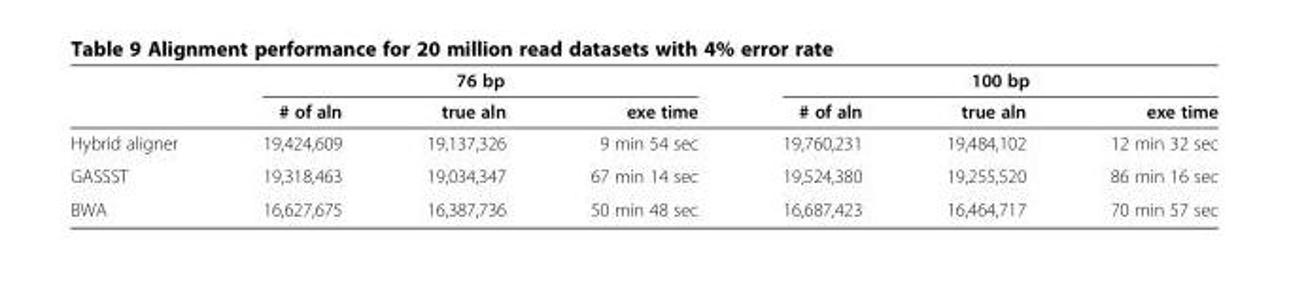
<table><thead><tr><td rowspan="2"></td><td rowspan="2"># of aln</td><td rowspan="2">76 bp true aln</td><td rowspan="2">exe time</td><td rowspan="2"># of aln</td><td rowspan="2">100 bp true aln</td><td rowspan="2">exe time</td></tr><tr></tr></thead><tbody><tr><td>Hybrid aligner</td><td>19,424,609</td><td>19,137,326</td><td>9 min 54 sec</td><td>19,760,231</td><td>19,484,102</td><td>12 min 32 sec</td></tr><tr><td>GASSST</td><td>19,318,463</td><td>19,034,347</td><td>67 min 14 sec</td><td>19,524,380</td><td>19,255,520</td><td>86 min 16 sec</td></tr><tr><td>BWA</td><td>16,627,675</td><td>16,387,736</td><td>50 min 48 sec</td><td>16,687,423</td><td>16,464,717</td><td>70 min 57 sec</td></tr></tbody></table>